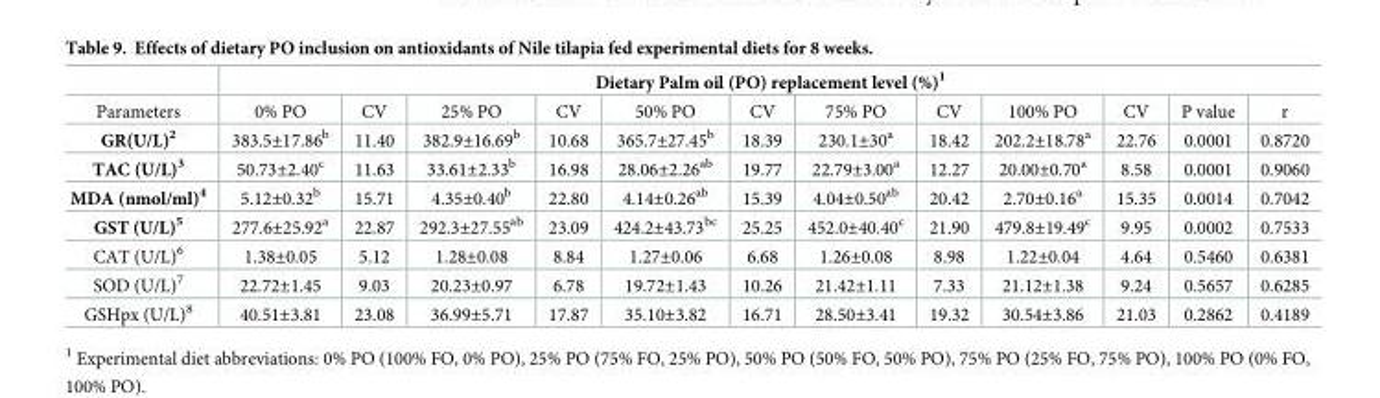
<table><thead><tr><td rowspan="2">Parameters</td><td colspan="12">Dietary Palm oil (PO) replacement level (%)<sup>1</sup></td></tr><tr><td>0% PO</td><td>CV</td><td>25% PO</td><td>CV</td><td>50% PO</td><td>CV</td><td>75% PO</td><td>CV</td><td>100% PO</td><td>CV</td><td>P value</td><td>r</td></tr></thead><tbody><tr><td>GR(U/L)<sup>2</sup></td><td>383.5±17.86<sup>b</sup></td><td>11.40</td><td>382.9±16.69<sup>b</sup></td><td>10.68</td><td>365.7±27.45<sup>b</sup></td><td>18.39</td><td>230.1±30<sup>a</sup></td><td>18.42</td><td>202.2±18.78<sup>a</sup></td><td>22.76</td><td>0.0001</td><td>0.8720</td></tr><tr><td>TAC (U/L)<sup>3</sup></td><td>50.73±2.40<sup>c</sup></td><td>11.63</td><td>33.61±2.33<sup>b</sup></td><td>16.98</td><td>28.06±2.26<sup>ab</sup></td><td>19.77</td><td>22.79±3.00<sup>a</sup></td><td>12.27</td><td>20.00±0.70<sup>a</sup></td><td>8.58</td><td>0.0001</td><td>0.9060</td></tr><tr><td>MDA (nmol/ml)<sup>4</sup></td><td>5.12±0.32<sup>b</sup></td><td>15.71</td><td>4.35±0.40<sup>b</sup></td><td>22.80</td><td>4.14±0.26<sup>ab</sup></td><td>15.39</td><td>4.04±0.50<sup>ab</sup></td><td>20.42</td><td>2.70±0.16<sup>a</sup></td><td>15.35</td><td>0.0014</td><td>0.7042</td></tr><tr><td>GST (U/L)<sup>5</sup></td><td>277.6±25.92<sup>a</sup></td><td>22.87</td><td>292.3±27.55<sup>ab</sup></td><td>23.09</td><td>424.2±43.73<sup>bc</sup></td><td>25.25</td><td>452.0±40.40<sup>c</sup></td><td>21.90</td><td>479.8±19.49<sup>c</sup></td><td>9.95</td><td>0.0002</td><td>0.7533</td></tr><tr><td>CAT (U/L)<sup>6</sup></td><td>1.38±0.05</td><td>5.12</td><td>1.28±0.08</td><td>8.84</td><td>1.27±0.06</td><td>6.68</td><td>1.26±0.08</td><td>8.98</td><td>1.22±0.04</td><td>4.64</td><td>0.5460</td><td>0.6381</td></tr><tr><td>SOD (U/L)<sup>7</sup></td><td>22.72±1.45</td><td>9.03</td><td>20.23±0.97</td><td>6.78</td><td>19.72±1.43</td><td>10.26</td><td>21.42±1.11</td><td>7.33</td><td>21.12±1.38</td><td>9.24</td><td>0.5657</td><td>0.6285</td></tr><tr><td>GSHpx (U/L)<sup>8</sup></td><td>40.51±3.81</td><td>23.08</td><td>36.99±5.71</td><td>17.87</td><td>35.10±3.82</td><td>16.71</td><td>28.50±3.41</td><td>19.32</td><td>30.54±3.86</td><td>21.03</td><td>0.2862</td><td>0.4189</td></tr></tbody></table>